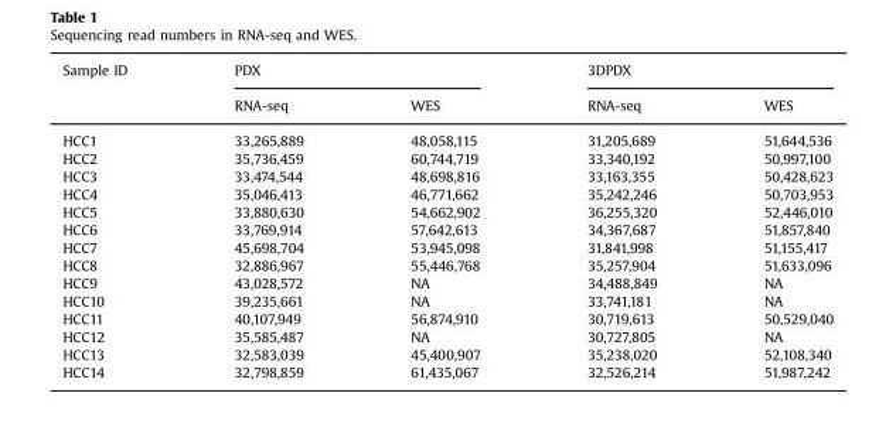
<table><thead><tr><td rowspan="2">Sample ID</td><td colspan="2">PDX</td><td colspan="2">3DPDX</td></tr><tr><td>RNA-seq</td><td>WES</td><td>RNA-seq</td><td>WES</td></tr></thead><tbody><tr><td>HCC1</td><td>33,265,889</td><td>48,058,115</td><td>31,205,689</td><td>51,644,536</td></tr><tr><td>HCC2</td><td>35,736,459</td><td>60,744,719</td><td>33,340,192</td><td>50,997,100</td></tr><tr><td>HCC3</td><td>33,474,544</td><td>48,698,816</td><td>33,163,355</td><td>50,428,623</td></tr><tr><td>HCC4</td><td>35,046,413</td><td>46,771,662</td><td>35,242,246</td><td>50,703,953</td></tr><tr><td>HCC5</td><td>33,880,630</td><td>54,662,902</td><td>36,255,320</td><td>52,446,010</td></tr><tr><td>HCC6</td><td>33,769,914</td><td>57,642,613</td><td>34,367,687</td><td>51,857,840</td></tr><tr><td>HCC7</td><td>45,698,704</td><td>53,945,098</td><td>31,841,998</td><td>51,155,417</td></tr><tr><td>HCC8</td><td>32,886,967</td><td>55,446,768</td><td>35,257,904</td><td>51,633,096</td></tr><tr><td>HCC9</td><td>43,028,572</td><td>NA</td><td>34,488,849</td><td>NA</td></tr><tr><td>HCC10</td><td>39,235,661</td><td>NA</td><td>33,741,181</td><td>NA</td></tr><tr><td>HCC11</td><td>40,107,949</td><td>56,874,910</td><td>30,719,613</td><td>50,529,040</td></tr><tr><td>HCC12</td><td>35,585,487</td><td>NA</td><td>30,727,805</td><td>NA</td></tr><tr><td>HCC13</td><td>32,583,039</td><td>45,400,907</td><td>35,238,020</td><td>52,108,340</td></tr><tr><td>HCC14</td><td>32,798,859</td><td>61,435,067</td><td>32,526,214</td><td>51,987,242</td></tr></tbody></table>